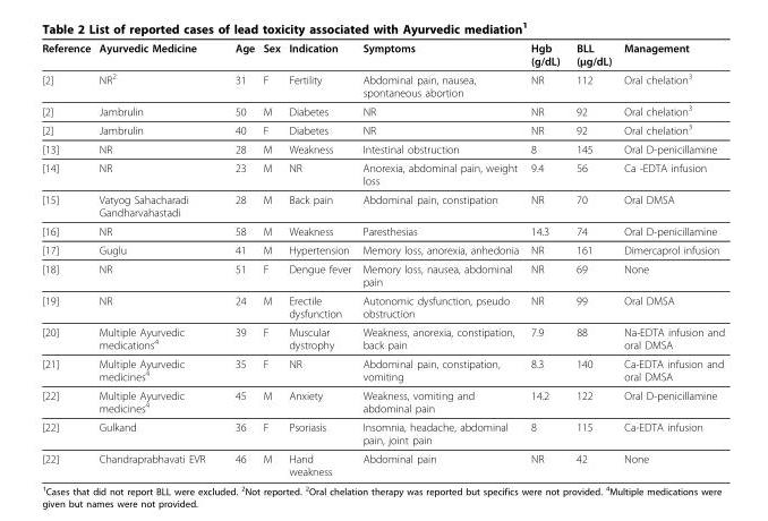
<table><thead><tr><td>Reference</td><td>Ayurvedic Medicine</td><td>Age</td><td>Sex</td><td>Indication</td><td>Symptoms</td><td>Hgb (g/dL)</td><td>BLL (μg/dL)</td><td>Management</td></tr></thead><tbody><tr><td>[2]</td><td>NR<sup>2</sup></td><td>31</td><td>F</td><td>Fertility</td><td>Abdominal pain, nausea, spontaneous abortion</td><td>NR</td><td>112</td><td>Oral chelation<sup>3</sup></td></tr><tr><td>[2]</td><td>Jambrulin</td><td>50</td><td>M</td><td>Diabetes</td><td>NR</td><td>NR</td><td>92</td><td>Oral chelation<sup>3</sup></td></tr><tr><td>[2]</td><td>Jambrulin</td><td>40</td><td>F</td><td>Diabetes</td><td>NR</td><td>NR</td><td>92</td><td>Oral chelation<sup>3</sup></td></tr><tr><td>[13]</td><td>NR</td><td>28</td><td>M</td><td>Weakness</td><td>Intestinal obstruction</td><td>8</td><td>145</td><td>Oral D-penicillamine</td></tr><tr><td>[14]</td><td>NR</td><td>23</td><td>M</td><td>NR</td><td>Anorexia, abdominal pain, weight loss</td><td>9.4</td><td>56</td><td>Ca -EDTA infusion</td></tr><tr><td>[15]</td><td>Vatyog Sahacharadi Gandharvahastadi</td><td>28</td><td>M</td><td>Back pain</td><td>Abdominal pain, constipation</td><td>NR</td><td>70</td><td>Oral DMSA</td></tr><tr><td>[16]</td><td>NR</td><td>58</td><td>M</td><td>Weakness</td><td>Paresthesias</td><td>14.3</td><td>74</td><td>Oral D-penicillamine</td></tr><tr><td>[17]</td><td>Guglu</td><td>41</td><td>M</td><td>Hypertension</td><td>Memory loss, anorexia, anhedonia</td><td>NR</td><td>161</td><td>Dimercaprol infusion</td></tr><tr><td>[18]</td><td>NR</td><td>51</td><td>F</td><td>Dengue fever</td><td>Memory loss, nausea, abdominal pain</td><td>NR</td><td>69</td><td>None</td></tr><tr><td>[19]</td><td>NR</td><td>24</td><td>M</td><td>Erectile dysfunction</td><td>Autonomic dysfunction, pseudo obstruction</td><td>NR</td><td>99</td><td>Oral DMSA</td></tr><tr><td>[20]</td><td>Multiple Ayurvedic medications<sup>4</sup></td><td>39</td><td>F</td><td>Muscular dystrophy</td><td>Weakness, anorexia, constipation, back pain</td><td>7.9</td><td>88</td><td>Na-EDTA infusion and oral DMSA</td></tr><tr><td>[21]</td><td>Multiple Ayurvedic medicines<sup>4</sup></td><td>35</td><td>F</td><td>NR</td><td>Abdominal pain, constipation, vomiting</td><td>8.3</td><td>140</td><td>Ca-EDTA infusion and oral DMSA</td></tr><tr><td>[22]</td><td>Multiple Ayurvedic medicines<sup>4</sup></td><td>45</td><td>M</td><td>Anxiety</td><td>Weakness, vomiting and abdominal pain</td><td>14.2</td><td>122</td><td>Oral D-penicillamine</td></tr><tr><td>[22]</td><td>Gulkand</td><td>36</td><td>F</td><td>Psoriasis</td><td>Insomnia, headache, abdominal pain, joint pain</td><td>8</td><td>115</td><td>Ca-EDTA infusion</td></tr><tr><td>[22]</td><td>Chandraprabhavati EVR</td><td>46</td><td>M</td><td>Hand weakness</td><td>Abdominal pain</td><td>NR</td><td>42</td><td>None</td></tr></tbody></table>